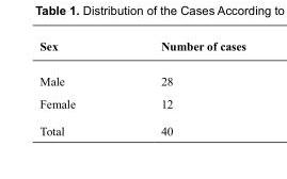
<table><thead><tr><td>Sex</td><td>Number of cases</td></tr></thead><tbody><tr><td>Male</td><td>28</td></tr><tr><td>Female</td><td>12</td></tr><tr><td>Total</td><td>40</td></tr></tbody></table>